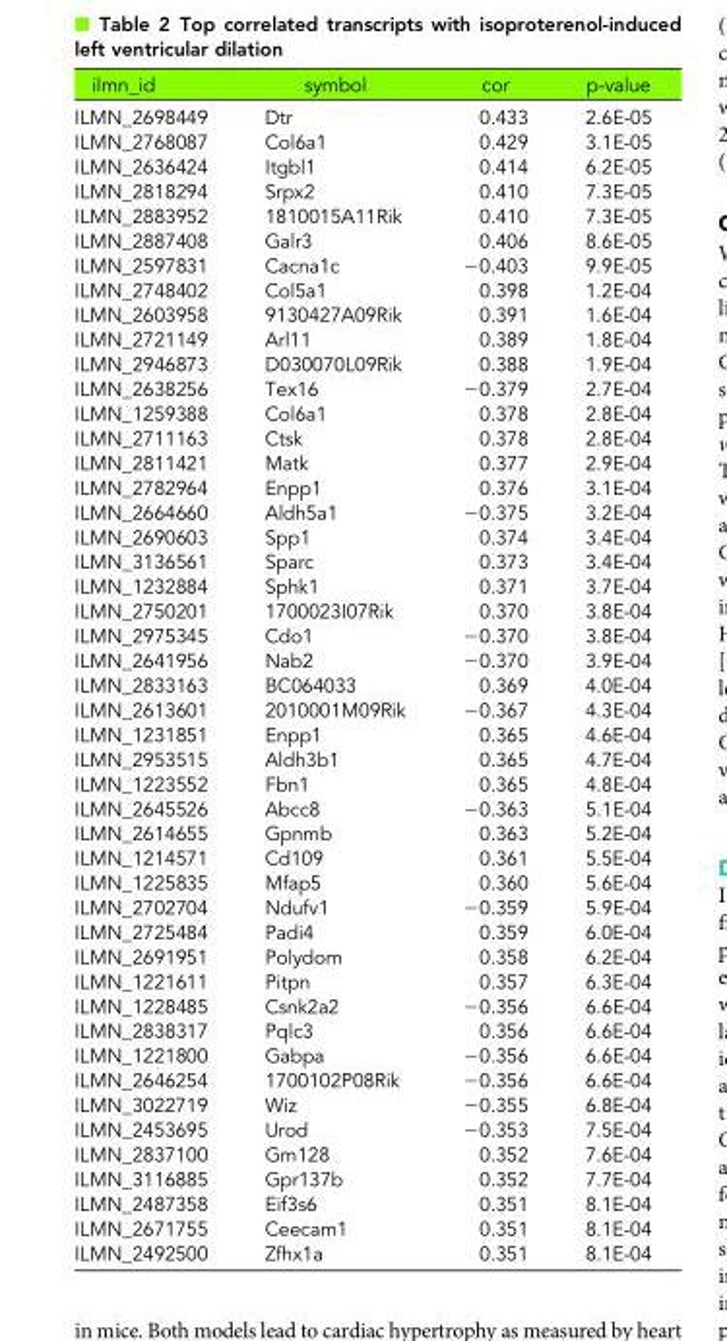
<table><thead><tr><td>ilmn_id</td><td>symbol</td><td>cor</td><td>p-value</td></tr></thead><tbody><tr><td>ILMN_2698449</td><td>Dtr</td><td>0.433</td><td>2.6E-05</td></tr><tr><td>ILMN_2768087</td><td>Col6a1</td><td>0.429</td><td>3.1E-05</td></tr><tr><td>ILMN_2636424</td><td>Itgbl1</td><td>0.414</td><td>6.2E-05</td></tr><tr><td>ILMN_2818294</td><td>Srpx2</td><td>0.410</td><td>7.3E-05</td></tr><tr><td>ILMN_2883952</td><td>1810015A11Rik</td><td>0.410</td><td>7.3E-05</td></tr><tr><td>ILMN_2887408</td><td>Galr3</td><td>0.406</td><td>8.6E-05</td></tr><tr><td>ILMN_2597831</td><td>Cacna1c</td><td>−0.403</td><td>9.9E-05</td></tr><tr><td>ILMN_2748402</td><td>Col5a1</td><td>0.398</td><td>1.2E-04</td></tr><tr><td>ILMN_2603958</td><td>9130427A09Rik</td><td>0.391</td><td>1.6E-04</td></tr><tr><td>ILMN_2721149</td><td>Arl11</td><td>0.389</td><td>1.8E-04</td></tr><tr><td>ILMN_2946873</td><td>D030070L09Rik</td><td>0.388</td><td>1.9E-04</td></tr><tr><td>ILMN_2638256</td><td>Tex16</td><td>−0.379</td><td>2.7E-04</td></tr><tr><td>ILMN_1259388</td><td>Col6a1</td><td>0.378</td><td>2.8E-04</td></tr><tr><td>ILMN_2711163</td><td>Ctsk</td><td>0.378</td><td>2.8E-04</td></tr><tr><td>ILMN_2811421</td><td>Matk</td><td>0.377</td><td>2.9E-04</td></tr><tr><td>ILMN_2782964</td><td>Enpp1</td><td>0.376</td><td>3.1E-04</td></tr><tr><td>ILMN_2664660</td><td>Aldh5a1</td><td>−0.375</td><td>3.2E-04</td></tr><tr><td>ILMN_2690603</td><td>Spp1</td><td>0.374</td><td>3.4E-04</td></tr><tr><td>ILMN_3136561</td><td>Sparc</td><td>0.373</td><td>3.4E-04</td></tr><tr><td>ILMN_1232884</td><td>Sphk1</td><td>0.371</td><td>3.7E-04</td></tr><tr><td>ILMN_2750201</td><td>1700023I07Rik</td><td>0.370</td><td>3.8E-04</td></tr><tr><td>ILMN_2975345</td><td>Cdo1</td><td>−0.370</td><td>3.8E-04</td></tr><tr><td>ILMN_2641956</td><td>Nab2</td><td>−0.370</td><td>3.9E-04</td></tr><tr><td>ILMN_2833163</td><td>BC064033</td><td>0.369</td><td>4.0E-04</td></tr><tr><td>ILMN_2613601</td><td>2010001M09Rik</td><td>−0.367</td><td>4.3E-04</td></tr><tr><td>ILMN_1231851</td><td>Enpp1</td><td>0.365</td><td>4.6E-04</td></tr><tr><td>ILMN_2953515</td><td>Aldh3b1</td><td>0.365</td><td>4.7E-04</td></tr><tr><td>ILMN_1223552</td><td>Fbn1</td><td>0.365</td><td>4.8E-04</td></tr><tr><td>ILMN_2645526</td><td>Abcc8</td><td>−0.363</td><td>5.1E-04</td></tr><tr><td>ILMN_2614655</td><td>Gpnmb</td><td>0.363</td><td>5.2E-04</td></tr><tr><td>ILMN_1214571</td><td>Cd109</td><td>0.361</td><td>5.5E-04</td></tr><tr><td>ILMN_1225835</td><td>Mfap5</td><td>0.360</td><td>5.6E-04</td></tr><tr><td>ILMN_2702704</td><td>Ndufv1</td><td>−0.359</td><td>5.9E-04</td></tr><tr><td>ILMN_2725484</td><td>Padi4</td><td>0.359</td><td>6.0E-04</td></tr><tr><td>ILMN_2691951</td><td>Polydom</td><td>0.358</td><td>6.2E-04</td></tr><tr><td>ILMN_1221611</td><td>Pitpn</td><td>0.357</td><td>6.3E-04</td></tr><tr><td>ILMN_1228485</td><td>Csnk2a2</td><td>−0.356</td><td>6.6E-04</td></tr><tr><td>ILMN_2838317</td><td>Pqlc3</td><td>0.356</td><td>6.6E-04</td></tr><tr><td>ILMN_1221800</td><td>Gabpa</td><td>−0.356</td><td>6.6E-04</td></tr><tr><td>ILMN_2646254</td><td>1700102P08Rik</td><td>−0.356</td><td>6.6E-04</td></tr><tr><td>ILMN_3022719</td><td>Wiz</td><td>−0.355</td><td>6.8E-04</td></tr><tr><td>ILMN_2453695</td><td>Urod</td><td>−0.353</td><td>7.5E-04</td></tr><tr><td>ILMN_2837100</td><td>Gm128</td><td>0.352</td><td>7.6E-04</td></tr><tr><td>ILMN_3116885</td><td>Gpr137b</td><td>0.352</td><td>7.7E-04</td></tr><tr><td>ILMN_2487358</td><td>Eif3s6</td><td>0.351</td><td>8.1E-04</td></tr><tr><td>ILMN_2671755</td><td>Ceecam1</td><td>0.351</td><td>8.1E-04</td></tr><tr><td>ILMN_2492500</td><td>Zfhx1a</td><td>0.351</td><td>8.1E-04</td></tr></tbody></table>